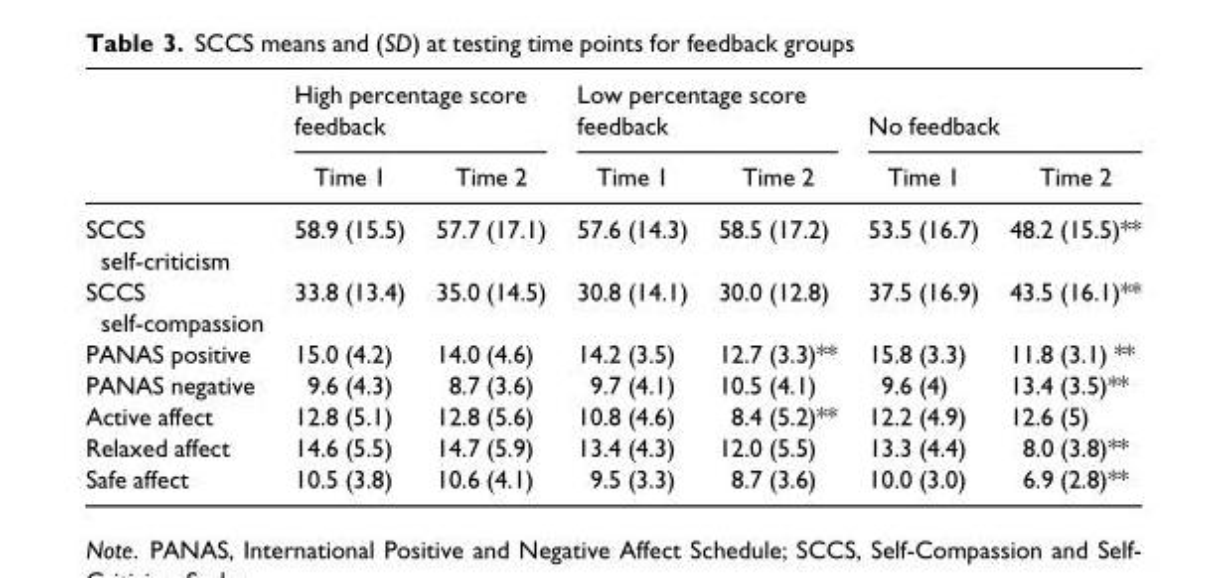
<table><thead><tr><td rowspan="2"></td><td colspan="2">High percentage score feedback</td><td colspan="2">Low percentage score feedback</td><td colspan="2">No feedback</td></tr><tr><td>Time 1</td><td>Time 2</td><td>Time 1</td><td>Time 2</td><td>Time 1</td><td>Time 2</td></tr></thead><tbody><tr><td>SCCS self-criticism</td><td>58.9 (15.5)</td><td>57.7 (17.1)</td><td>57.6 (14.3)</td><td>58.5 (17.2)</td><td>53.5 (16.7)</td><td>48.2 (15.5)**</td></tr><tr><td>SCCS self-compassion</td><td>33.8 (13.4)</td><td>35.0 (14.5)</td><td>30.8 (14.1)</td><td>30.0 (12.8)</td><td>37.5 (16.9)</td><td>43.5 (16.1)**</td></tr><tr><td>PANAS positive</td><td>15.0 (4.2)</td><td>14.0 (4.6)</td><td>14.2 (3.5)</td><td>12.7 (3.3)**</td><td>15.8 (3.3)</td><td>11.8 (3.1) **</td></tr><tr><td>PANAS negative</td><td>9.6 (4.3)</td><td>8.7 (3.6)</td><td>9.7 (4.1)</td><td>10.5 (4.1)</td><td>9.6 (4)</td><td>13.4 (3.5)**</td></tr><tr><td>Active affect</td><td>12.8 (5.1)</td><td>12.8 (5.6)</td><td>10.8 (4.6)</td><td>8.4 (5.2)**</td><td>12.2 (4.9)</td><td>12.6 (5)</td></tr><tr><td>Relaxed affect</td><td>14.6 (5.5)</td><td>14.7 (5.9)</td><td>13.4 (4.3)</td><td>12.0 (5.5)</td><td>13.3 (4.4)</td><td>8.0 (3.8)**</td></tr><tr><td>Safe affect</td><td>10.5 (3.8)</td><td>10.6 (4.1)</td><td>9.5 (3.3)</td><td>8.7 (3.6)</td><td>10.0 (3.0)</td><td>6.9 (2.8)**</td></tr></tbody></table>